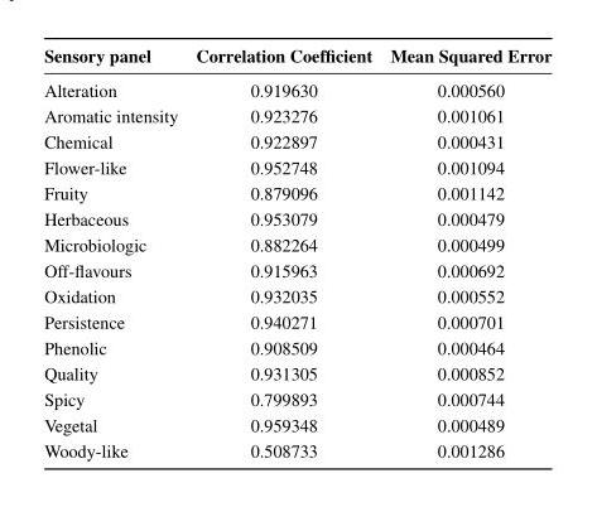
<table><thead><tr><td>Sensory panel</td><td>Correlation Coefficient</td><td>Mean Squared Error</td></tr></thead><tbody><tr><td>Alteration</td><td>0.919630</td><td>0.000560</td></tr><tr><td>Aromatic intensity</td><td>0.923276</td><td>0.001061</td></tr><tr><td>Chemical</td><td>0.922897</td><td>0.000431</td></tr><tr><td>Flower-like</td><td>0.952748</td><td>0.001094</td></tr><tr><td>Fruity</td><td>0.879096</td><td>0.001142</td></tr><tr><td>Herbaceous</td><td>0.953079</td><td>0.000479</td></tr><tr><td>Microbiologic</td><td>0.882264</td><td>0.000499</td></tr><tr><td>Off-flavours</td><td>0.915963</td><td>0.000692</td></tr><tr><td>Oxidation</td><td>0.932035</td><td>0.000552</td></tr><tr><td>Persistence</td><td>0.940271</td><td>0.000701</td></tr><tr><td>Phenolic</td><td>0.908509</td><td>0.000464</td></tr><tr><td>Quality</td><td>0.931305</td><td>0.000852</td></tr><tr><td>Spicy</td><td>0.799893</td><td>0.000744</td></tr><tr><td>Vegetal</td><td>0.959348</td><td>0.000489</td></tr><tr><td>Woody-like</td><td>0.508733</td><td>0.001286</td></tr></tbody></table>